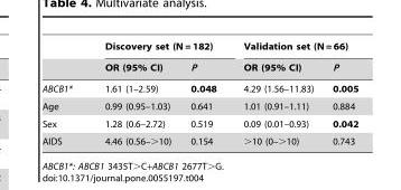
<table><thead><tr><td rowspan="2"></td><td colspan="2">Discovery set (N = 182)</td><td colspan="2">Validation set (N = 66)</td></tr><tr><td>OR (95% CI)</td><td>P</td><td>OR (95% CI)</td><td>P</td></tr></thead><tbody><tr><td>ABCB1*</td><td>1.61 (1–2.59)</td><td>0.048</td><td>4.29 (1.56–11.83)</td><td>0.005</td></tr><tr><td>Age</td><td>0.99 (0.95–1.03)</td><td>0.641</td><td>1.01 (0.91–1.11)</td><td>0.884</td></tr><tr><td>Sex</td><td>1.28 (0.6–2.72)</td><td>0.519</td><td>0.09 (0.01–0.93)</td><td>0.042</td></tr><tr><td>AIDS</td><td>4.46 (0.56–&gt;10)</td><td>0.154</td><td>&gt;10 (0–&gt;10)</td><td>0.743</td></tr></tbody></table>